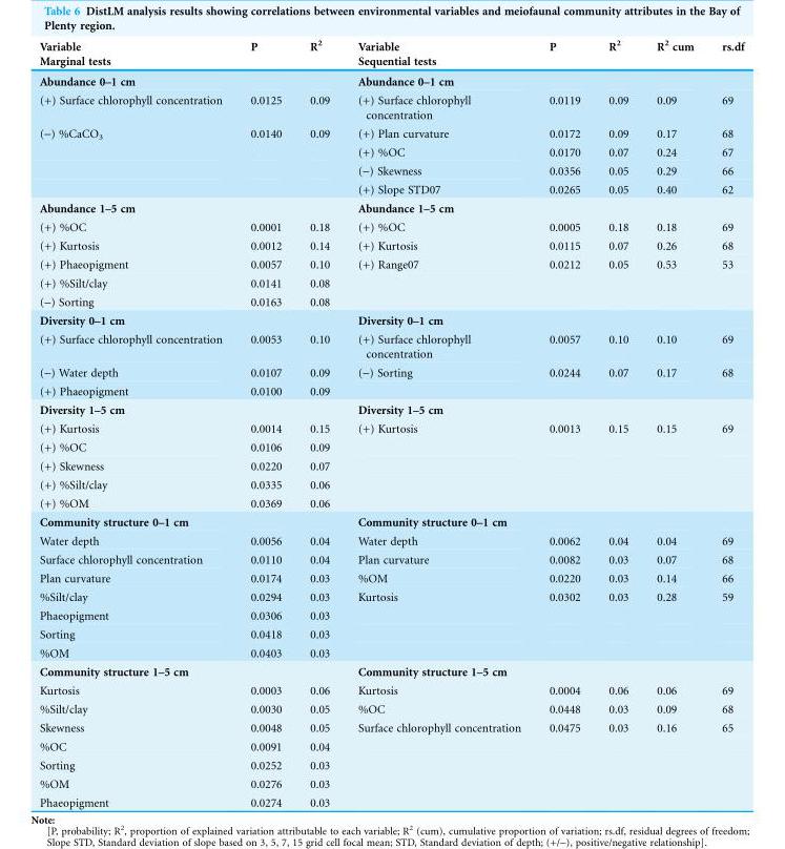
<table><thead><tr><td rowspan="2">Variable Marginal tests</td><td rowspan="2">P</td><td rowspan="2">R<sup>2</sup></td><td rowspan="2">Variable Sequential tests</td><td rowspan="2">P</td><td rowspan="2">R<sup>2</sup></td><td rowspan="2">R<sup>2</sup> cum</td><td rowspan="2">rs.df</td></tr><tr></tr></thead><tbody><tr><td colspan="3">Abundance 0–1 cm</td><td colspan="5">Abundance 0–1 cm</td></tr><tr><td>(+) Surface chlorophyll concentration</td><td>0.0125</td><td>0.09</td><td>(+) Surface chlorophyll concentration</td><td>0.0119</td><td>0.09</td><td>0.09</td><td>69</td></tr><tr><td rowspan="4">(-) %CaCO<sub>3</sub></td><td>0.0140</td><td>0.09</td><td>(+) Plan curvature</td><td>0.0172</td><td>0.09</td><td>0.17</td><td>68</td></tr><tr><td></td><td></td><td>(+) %OC</td><td>0.0170</td><td>0.07</td><td>0.24</td><td>67</td></tr><tr><td></td><td></td><td>(-) Skewness</td><td>0.0356</td><td>0.05</td><td>0.29</td><td>66</td></tr><tr><td></td><td></td><td>(+) Slope STD07</td><td>0.0265</td><td>0.05</td><td>0.40</td><td>62</td></tr><tr><td colspan="3">Abundance 1–5 cm</td><td colspan="5">Abundance 1–5 cm</td></tr><tr><td>(+) %OC</td><td>0.0001</td><td>0.18</td><td>(+) %OC</td><td>0.0005</td><td>0.18</td><td>0.18</td><td>69</td></tr><tr><td>(+) Kurtosis</td><td>0.0012</td><td>0.14</td><td>(+) Kurtosis</td><td>0.0115</td><td>0.07</td><td>0.26</td><td>68</td></tr><tr><td>(+) Phaeopigment</td><td>0.0057</td><td>0.10</td><td>(+) Range07</td><td>0.0212</td><td>0.05</td><td>0.53</td><td>53</td></tr><tr><td>(+) %Silt/clay</td><td>0.0141</td><td>0.08</td><td></td><td></td><td></td><td></td><td></td></tr><tr><td>(-) Sorting</td><td>0.0163</td><td>0.08</td><td></td><td></td><td></td><td></td><td></td></tr><tr><td colspan="3">Diversity 0–1 cm</td><td colspan="5">Diversity 0–1 cm</td></tr><tr><td>(+) Surface chlorophyll concentration</td><td>0.0053</td><td>0.10</td><td>(+) Surface chlorophyll concentration</td><td>0.0057</td><td>0.10</td><td>0.10</td><td>69</td></tr><tr><td>(-) Water depth</td><td>0.0107</td><td>0.09</td><td>(-) Sorting</td><td>0.0244</td><td>0.07</td><td>0.17</td><td>68</td></tr><tr><td>(+) Phaeopigment</td><td>0.0100</td><td>0.09</td><td></td><td></td><td></td><td></td><td></td></tr><tr><td colspan="3">Diversity 1–5 cm</td><td colspan="5">Diversity 1–5 cm</td></tr><tr><td>(+) Kurtosis</td><td>0.0014</td><td>0.15</td><td>(+) Kurtosis</td><td>0.0013</td><td>0.15</td><td>0.15</td><td>69</td></tr><tr><td>(+) %OC</td><td>0.0106</td><td>0.09</td><td></td><td></td><td></td><td></td><td></td></tr><tr><td>(+) Skewness</td><td>0.0220</td><td>0.07</td><td></td><td></td><td></td><td></td><td></td></tr><tr><td>(+) %Silt/clay</td><td>0.0335</td><td>0.06</td><td></td><td></td><td></td><td></td><td></td></tr><tr><td>(+) %OM</td><td>0.0369</td><td>0.06</td><td></td><td></td><td></td><td></td><td></td></tr><tr><td colspan="3">Community structure 0–1 cm</td><td colspan="5">Community structure 0–1 cm</td></tr><tr><td>Water depth</td><td>0.0056</td><td>0.04</td><td>Water depth</td><td>0.0062</td><td>0.04</td><td>0.04</td><td>69</td></tr><tr><td>Surface chlorophyll concentration</td><td>0.0110</td><td>0.04</td><td>Plan curvature</td><td>0.0082</td><td>0.03</td><td>0.07</td><td>68</td></tr><tr><td>Plan curvature</td><td>0.0174</td><td>0.03</td><td>%OM</td><td>0.0220</td><td>0.03</td><td>0.14</td><td>66</td></tr><tr><td>%Silt/clay</td><td>0.0294</td><td>0.03</td><td>Kurtosis</td><td>0.0302</td><td>0.03</td><td>0.28</td><td>59</td></tr><tr><td>Phaeopigment</td><td>0.0306</td><td>0.03</td><td></td><td></td><td></td><td></td><td></td></tr><tr><td>Sorting</td><td>0.0418</td><td>0.03</td><td></td><td></td><td></td><td></td><td></td></tr><tr><td>%OM</td><td>0.0403</td><td>0.03</td><td></td><td></td><td></td><td></td><td></td></tr><tr><td colspan="3">Community structure 1–5 cm</td><td colspan="5">Community structure 1–5 cm</td></tr><tr><td>Kurtosis</td><td>0.0003</td><td>0.06</td><td>Kurtosis</td><td>0.0004</td><td>0.06</td><td>0.06</td><td>69</td></tr><tr><td>%Silt/clay</td><td>0.0030</td><td>0.05</td><td>%OC</td><td>0.0448</td><td>0.03</td><td>0.09</td><td>68</td></tr><tr><td>Skewness</td><td>0.0048</td><td>0.05</td><td>Surface chlorophyll concentration</td><td>0.0475</td><td>0.03</td><td>0.16</td><td>65</td></tr><tr><td>%OC</td><td>0.0091</td><td>0.04</td><td></td><td></td><td></td><td></td><td></td></tr><tr><td>Sorting</td><td>0.0252</td><td>0.03</td><td></td><td></td><td></td><td></td><td></td></tr><tr><td>%OM</td><td>0.0276</td><td>0.03</td><td></td><td></td><td></td><td></td><td></td></tr><tr><td>Phaeopigment</td><td>0.0274</td><td>0.03</td><td></td><td></td><td></td><td></td><td></td></tr></tbody></table>